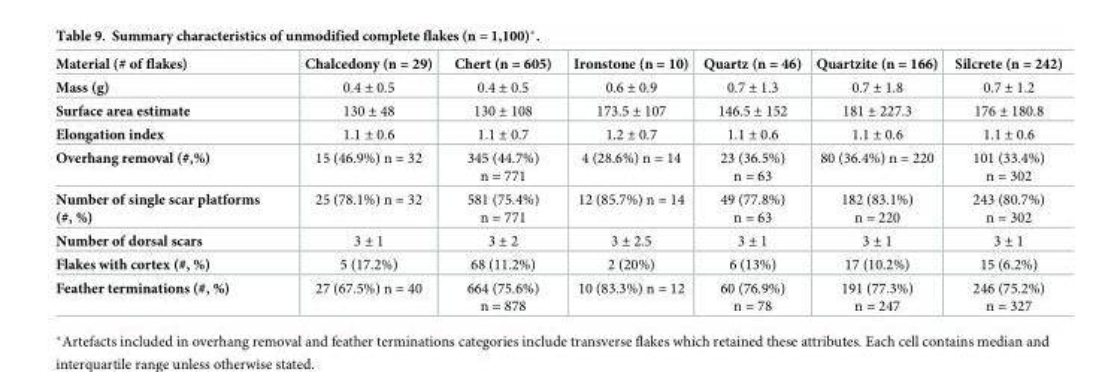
<table><thead><tr><td>Material (# of flakes)</td><td>Chalcedony (n = 29)</td><td>Chert (n = 605)</td><td>Ironstone (n = 10)</td><td>Quartz (n = 46)</td><td>Quartzite (n = 166)</td><td>Silcrete (n = 242)</td></tr></thead><tbody><tr><td>Mass (g)</td><td>0.4 ± 0.5</td><td>0.4 ± 0.5</td><td>0.6 ± 0.9</td><td>0.7 ± 1.3</td><td>0.7 ± 1.8</td><td>0.7 ± 1.2</td></tr><tr><td>Surface area estimate</td><td>130 ± 48</td><td>130 ± 108</td><td>173.5 ± 107</td><td>146.5 ± 152</td><td>181 ± 227.3</td><td>176 ± 180.8</td></tr><tr><td>Elongation index</td><td>1.1 ± 0.6</td><td>1.1 ± 0.7</td><td>1.2 ± 0.7</td><td>1.1 ± 0.6</td><td>1.1 ± 0.6</td><td>1.1 ± 0.6</td></tr><tr><td>Overhang removal (#,%)</td><td>15 (46.9%) n = 32</td><td>345 (44.7%) n = 771</td><td>4 (28.6%) n = 14</td><td>23 (36.5%) n = 63</td><td>80 (36.4%) n = 220</td><td>101 (33.4%) n = 302</td></tr><tr><td>Number of single scar platforms (#, %)</td><td>25 (78.1%) n = 32</td><td>581 (75.4%) n = 771</td><td>12 (85.7%) n = 14</td><td>49 (77.8%) n = 63</td><td>182 (83.1%) n = 220</td><td>243 (80.7%) n = 302</td></tr><tr><td>Number of dorsal scars</td><td>3 ± 1</td><td>3 ± 2</td><td>3 ± 2.5</td><td>3 ± 1</td><td>3 ± 1</td><td>3 ± 1</td></tr><tr><td>Flakes with cortex (#, %)</td><td>5 (17.2%)</td><td>68 (11.2%)</td><td>2 (20%)</td><td>6 (13%)</td><td>17 (10.2%)</td><td>15 (6.2%)</td></tr><tr><td>Feather terminations (#, %)</td><td>27 (67.5%) n = 40</td><td>664 (75.6%) n = 878</td><td>10 (83.3%) n = 12</td><td>60 (76.9%) n = 78</td><td>191 (77.3%) n = 247</td><td>246 (75.2%) n = 327</td></tr></tbody></table>